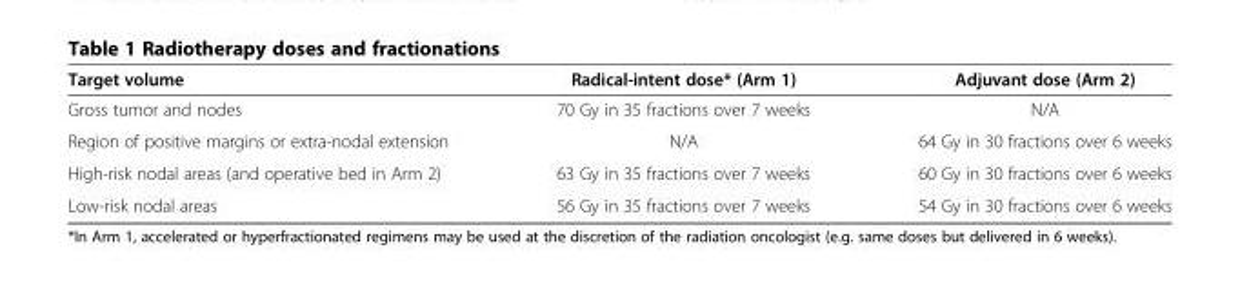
<table><thead><tr><td>Target volume</td><td>Radical-intent dose* (Arm 1)</td><td>Adjuvant dose (Arm 2)</td></tr></thead><tbody><tr><td>Gross tumor and nodes</td><td>70 Gy in 35 fractions over 7 weeks</td><td>N/A</td></tr><tr><td>Region of positive margins or extra-nodal extension</td><td>N/A</td><td>64 Gy in 30 fractions over 6 weeks</td></tr><tr><td>High-risk nodal areas (and operative bed in Arm 2)</td><td>63 Gy in 35 fractions over 7 weeks</td><td>60 Gy in 30 fractions over 6 weeks</td></tr><tr><td>Low-risk nodal areas</td><td>56 Gy in 35 fractions over 7 weeks</td><td>54 Gy in 30 fractions over 6 weeks</td></tr></tbody></table>